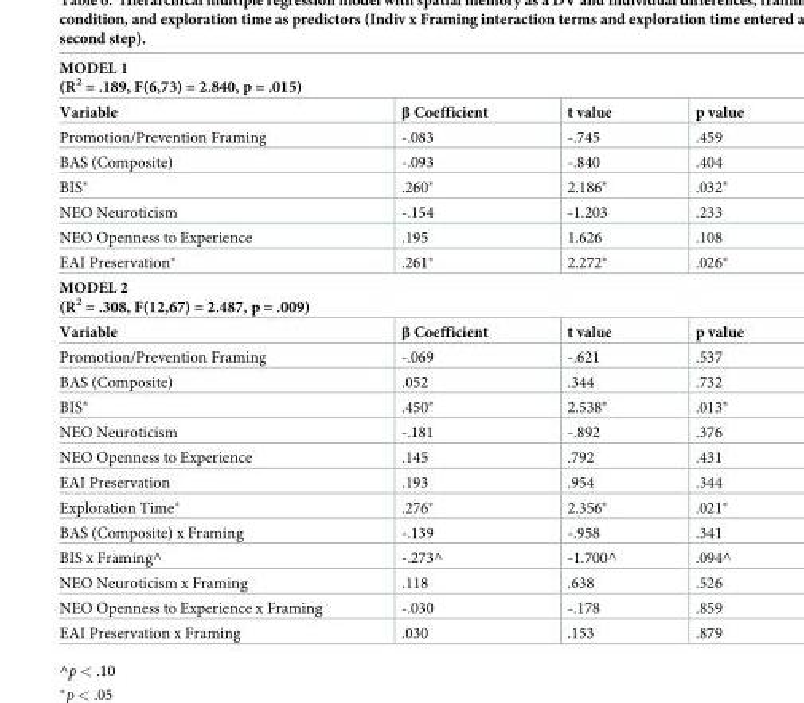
<table><tbody><tr><td colspan="4">MODEL 1 (R<sup>2</sup> = .189, F(6,73) = 2.840, p = .015)</td></tr><tr><td>Variable</td><td>β Coefficient</td><td>t value</td><td>p value</td></tr><tr><td>Promotion/Prevention Framing</td><td>-.083</td><td>-.745</td><td>.459</td></tr><tr><td>BAS (Composite)</td><td>-.093</td><td>-.840</td><td>.404</td></tr><tr><td>BIS*</td><td>.260*</td><td>2.186*</td><td>.032*</td></tr><tr><td>NEO Neuroticism</td><td>-.154</td><td>-1.203</td><td>.233</td></tr><tr><td>NEO Openness to Experience</td><td>.195</td><td>1.626</td><td>.108</td></tr><tr><td>EAI Preservation*</td><td>.261*</td><td>2.272*</td><td>.026*</td></tr><tr><td colspan="4">MODEL 2 (R<sup>2</sup> = .308, F(12,67) = 2.487, p = .009)</td></tr><tr><td>Variable</td><td>β Coefficient</td><td>t value</td><td>p value</td></tr><tr><td>Promotion/Prevention Framing</td><td>-.069</td><td>-.621</td><td>.537</td></tr><tr><td>BAS (Composite)</td><td>.052</td><td>.344</td><td>.732</td></tr><tr><td>BIS*</td><td>.450*</td><td>2.538*</td><td>.013*</td></tr><tr><td>NEO Neuroticism</td><td>-.181</td><td>-.892</td><td>.376</td></tr><tr><td>NEO Openness to Experience</td><td>.145</td><td>.792</td><td>.431</td></tr><tr><td>EAI Preservation</td><td>.193</td><td>.954</td><td>.344</td></tr><tr><td>Exploration Time*</td><td>.276*</td><td>2.356*</td><td>.021*</td></tr><tr><td>BAS (Composite) x Framing</td><td>-.139</td><td>-.958</td><td>.341</td></tr><tr><td>BIS x Framing^</td><td>-.273^</td><td>-1.700^</td><td>.094^</td></tr><tr><td>NEO Neuroticism x Framing</td><td>.118</td><td>.638</td><td>.526</td></tr><tr><td>NEO Openness to Experience x Framing</td><td>-.030</td><td>-.178</td><td>.859</td></tr><tr><td>EAI Preservation x Framing</td><td>.030</td><td>.153</td><td>.879</td></tr></tbody></table>